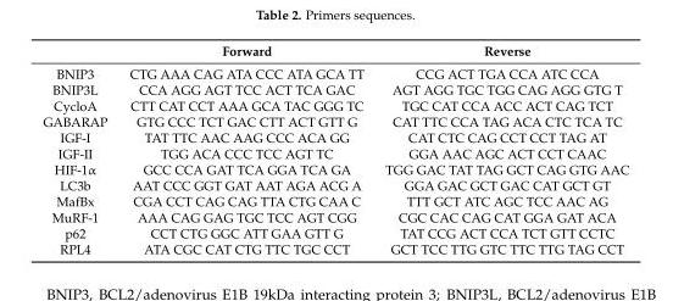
<table><thead><tr><td></td><td>Forward</td><td>Reverse</td></tr></thead><tbody><tr><td>BNIP3</td><td>CTG AAA CAG ATA CCC ATA GCA TT</td><td>CCG ACT TGA CCA ATC CCA</td></tr><tr><td>BNIP3L</td><td>CCA AGG AGT TCC ACT TCA GAC</td><td>AGT AGG TGC TGG CAG AGG GTG T</td></tr><tr><td>CycloA</td><td>CTT CAT CCT AAA GCA TAC GGG TC</td><td>TGC CAT CCA ACC ACT CAG TCT</td></tr><tr><td>GABARAP</td><td>GTG CCC TCT GAC CTT ACT GTT G</td><td>CAT TTC CCA TAG ACA CTC TCA TC</td></tr><tr><td>IGF-I</td><td>TAT TTC AAC AAG CCC ACA GG</td><td>CAT CTC CAG CCT CCT TAG AT</td></tr><tr><td>IGF-II</td><td>TGG ACA CCC TCC AGT TC</td><td>GGA AAC AGC ACT CCT CAAC</td></tr><tr><td>HIF-1α</td><td>GCC CCA GAT TCA GGA TCA GA</td><td>TGG GAC TAT TAG GCT CAG GTG AAC</td></tr><tr><td>LC3b</td><td>AAT CCC GGT GAT AAT AGA ACG A</td><td>GGA GAC GCT GAC CAT GCT GT</td></tr><tr><td>MafBx</td><td>CGA CCT CAG CAG TTA CTG CAA C</td><td>TTT GCT ATC AGC TCC AAC AG</td></tr><tr><td>MuRF-1</td><td>AAA CAG GAG TGC TCC AGT CGG</td><td>CGC CAC CAG CAT GGA GAT ACA</td></tr><tr><td>p62</td><td>CCT CTG GGC ATT GAA GTT G</td><td>TAT CCG ACT CCA TCT GTT CCTC</td></tr><tr><td>RPL4</td><td>ATA CGC CAT CTG TTC TGC CCT</td><td>GCT TCC TTG GTC TTC TTG TAG CCT</td></tr></tbody></table>